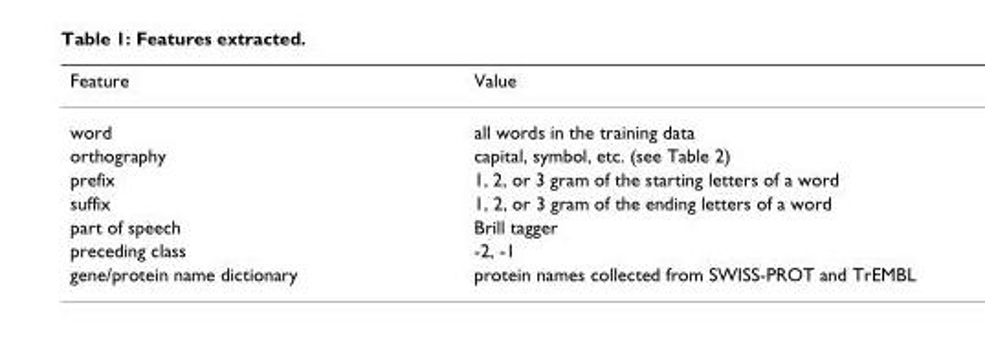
<table><thead><tr><td>Feature</td><td>Value</td></tr></thead><tbody><tr><td>word</td><td>all words in the training data</td></tr><tr><td>orthography</td><td>capital, symbol, etc. (see Table 2)</td></tr><tr><td>prefix</td><td>1, 2, or 3 gram of the starting letters of a word</td></tr><tr><td>suffix</td><td>1, 2, or 3 gram of the ending letters of a word</td></tr><tr><td>part of speech</td><td>Brill tagger</td></tr><tr><td>preceding class</td><td>-2, -1</td></tr><tr><td>gene/protein name dictionary</td><td>protein names collected from SWISS-PROT and TrEMBL</td></tr></tbody></table>